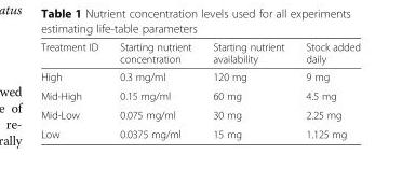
<table><thead><tr><td>Treatment ID</td><td>Starting nutrient concentration</td><td>Starting nutrient availability</td><td>Stock added daily</td></tr></thead><tbody><tr><td>High</td><td>0.3 mg/ml</td><td>120 mg</td><td>9 mg</td></tr><tr><td>Mid-High</td><td>0.15 mg/ml</td><td>60 mg</td><td>4.5 mg</td></tr><tr><td>Mid-Low</td><td>0.075 mg/ml</td><td>30 mg</td><td>2.25 mg</td></tr><tr><td>Low</td><td>0.0375 mg/ml</td><td>15 mg</td><td>1.125 mg</td></tr></tbody></table>